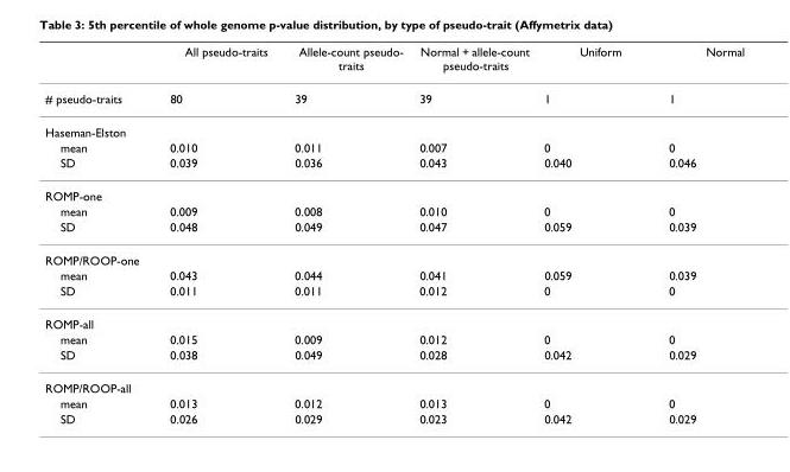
<table><thead><tr><td></td><td>All pseudo-traits</td><td>Allele-count pseudo- traits</td><td>Normal + allele-count pseudo-traits</td><td>Uniform</td><td>Normal</td></tr></thead><tbody><tr><td># pseudo-traits</td><td>80</td><td>39</td><td>39</td><td>1</td><td>1</td></tr><tr><td colspan="6">Haseman-Elston</td></tr><tr><td>mean</td><td>0.010</td><td>0.011</td><td>0.007</td><td>0</td><td>0</td></tr><tr><td>SD</td><td>0.039</td><td>0.036</td><td>0.043</td><td>0.040</td><td>0.046</td></tr><tr><td colspan="6">ROMP-one</td></tr><tr><td>mean</td><td>0.009</td><td>0.008</td><td>0.010</td><td>0</td><td>0</td></tr><tr><td>SD</td><td>0.048</td><td>0.049</td><td>0.047</td><td>0.059</td><td>0.039</td></tr><tr><td colspan="6">ROMP/ROOP-one</td></tr><tr><td>mean</td><td>0.043</td><td>0.044</td><td>0.041</td><td>0.059</td><td>0.039</td></tr><tr><td>SD</td><td>0.011</td><td>0.011</td><td>0.012</td><td>0</td><td>0</td></tr><tr><td colspan="6">ROMP-all</td></tr><tr><td>mean</td><td>0.015</td><td>0.009</td><td>0.012</td><td>0</td><td>0</td></tr><tr><td>SD</td><td>0.038</td><td>0.049</td><td>0.028</td><td>0.042</td><td>0.029</td></tr><tr><td colspan="6">ROMP/ROOP-all</td></tr><tr><td>mean</td><td>0.013</td><td>0.012</td><td>0.013</td><td>0</td><td>0</td></tr><tr><td>SD</td><td>0.026</td><td>0.029</td><td>0.023</td><td>0.042</td><td>0.029</td></tr></tbody></table>